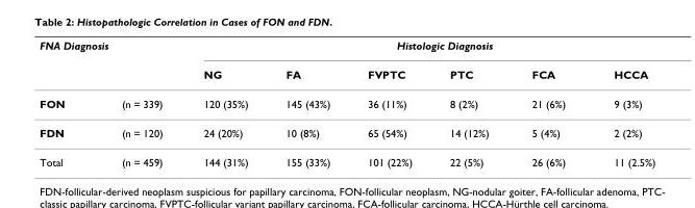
<table><thead><tr><td colspan="2">FNA Diagnosis</td><td colspan="6">Histologic Diagnosis</td></tr><tr><td></td><td></td><td>NG</td><td>FA</td><td>FVPTC</td><td>PTC</td><td>FCA</td><td>HCCA</td></tr></thead><tbody><tr><td>FON</td><td>(n = 339)</td><td>120 (35%)</td><td>145 (43%)</td><td>36 (11%)</td><td>8 (2%)</td><td>21 (6%)</td><td>9 (3%)</td></tr><tr><td>FDN</td><td>(n = 120)</td><td>24 (20%)</td><td>10 (8%)</td><td>65 (54%)</td><td>14 (12%)</td><td>5 (4%)</td><td>2 (2%)</td></tr><tr><td>Total</td><td>(n = 459)</td><td>144 (31%)</td><td>155 (33%)</td><td>101 (22%)</td><td>22 (5%)</td><td>26 (6%)</td><td>11 (2.5%)</td></tr></tbody></table>